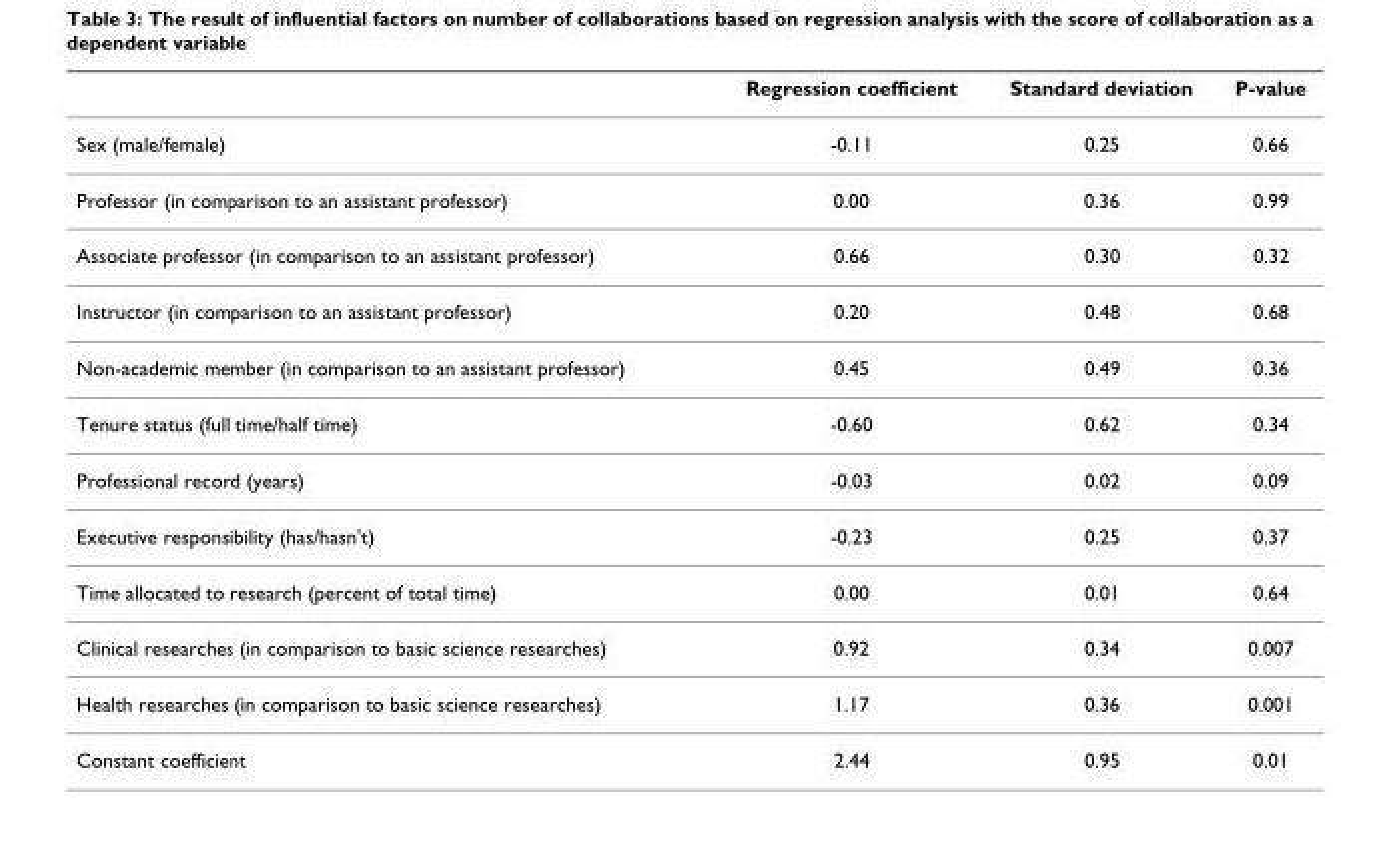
<table><thead><tr><td></td><td>Regression coefficient</td><td>Standard deviation</td><td>P-value</td></tr></thead><tbody><tr><td>Sex (male/female)</td><td>-0.11</td><td>0.25</td><td>0.66</td></tr><tr><td>Professor (in comparison to an assistant professor)</td><td>0.00</td><td>0.36</td><td>0.99</td></tr><tr><td>Associate professor (in comparison to an assistant professor)</td><td>0.66</td><td>0.30</td><td>0.32</td></tr><tr><td>Instructor (in comparison to an assistant professor)</td><td>0.20</td><td>0.48</td><td>0.68</td></tr><tr><td>Non-academic member (in comparison to an assistant professor)</td><td>0.45</td><td>0.49</td><td>0.36</td></tr><tr><td>Tenure status (full time/half time)</td><td>-0.60</td><td>0.62</td><td>0.34</td></tr><tr><td>Professional record (years)</td><td>-0.03</td><td>0.02</td><td>0.09</td></tr><tr><td>Executive responsibility (has/hasn&#x27;t)</td><td>-0.23</td><td>0.25</td><td>0.37</td></tr><tr><td>Time allocated to research (percent of total time)</td><td>0.00</td><td>0.01</td><td>0.64</td></tr><tr><td>Clinical researches (in comparison to basic science researches)</td><td>0.92</td><td>0.34</td><td>0.007</td></tr><tr><td>Health researches (in comparison to basic science researches)</td><td>1.17</td><td>0.36</td><td>0.001</td></tr><tr><td>Constant coefficient</td><td>2.44</td><td>0.95</td><td>0.01</td></tr></tbody></table>